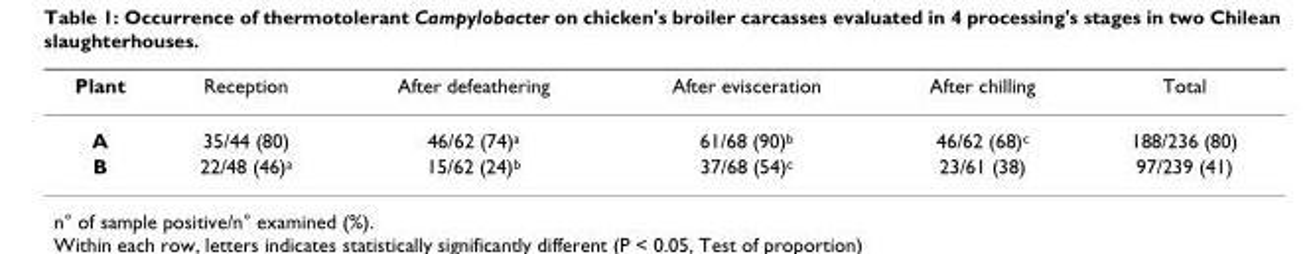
<table><thead><tr><td>Plant</td><td>Reception</td><td>After defeathering</td><td>After evisceration</td><td>After chilling</td><td>Total</td></tr></thead><tbody><tr><td>A</td><td>35/44 (80)</td><td>46/62 (74)<sup>a</sup></td><td>61/68 (90)<sup>b</sup></td><td>46/62 (68)<sup>c</sup></td><td>188/236 (80)</td></tr><tr><td>B</td><td>22/48 (46)<sup>a</sup></td><td>15/62 (24)<sup>b</sup></td><td>37/68 (54)<sup>c</sup></td><td>23/61 (38)</td><td>97/239 (41)</td></tr></tbody></table>